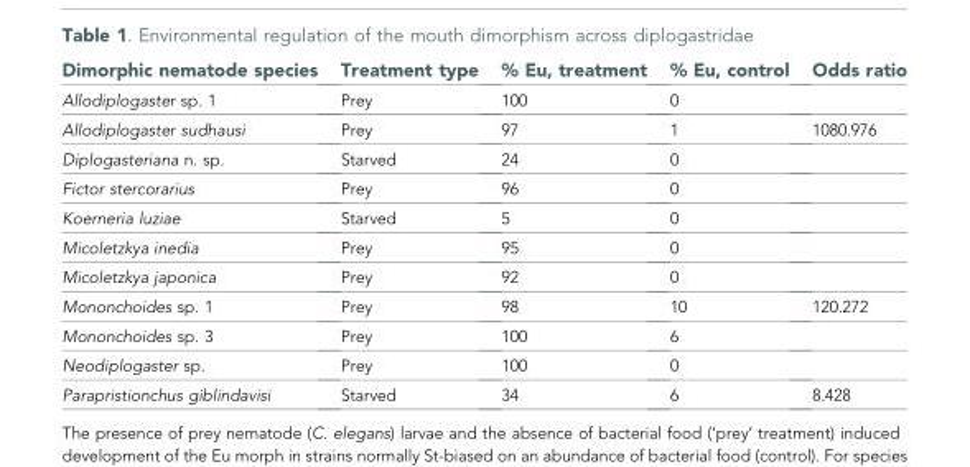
<table><thead><tr><td>Dimorphic nematode species</td><td>Treatment type</td><td>% Eu, treatment</td><td>% Eu, control</td><td>Odds ratio</td></tr></thead><tbody><tr><td>Allodiplogaster sp. 1</td><td>Prey</td><td>100</td><td>0</td><td></td></tr><tr><td>Allodiplogaster sudhausi</td><td>Prey</td><td>97</td><td>1</td><td>1080.976</td></tr><tr><td>Diplogasteriana n. sp.</td><td>Starved</td><td>24</td><td>0</td><td></td></tr><tr><td>Fictor stercorarius</td><td>Prey</td><td>96</td><td>0</td><td></td></tr><tr><td>Koerneria luziae</td><td>Starved</td><td>5</td><td>0</td><td></td></tr><tr><td>Micoletzkya inedia</td><td>Prey</td><td>95</td><td>0</td><td></td></tr><tr><td>Micoletzkya japonica</td><td>Prey</td><td>92</td><td>0</td><td></td></tr><tr><td>Mononchoides sp. 1</td><td>Prey</td><td>98</td><td>10</td><td>120.272</td></tr><tr><td>Mononchoides sp. 3</td><td>Prey</td><td>100</td><td>6</td><td></td></tr><tr><td>Neodiplogaster sp.</td><td>Prey</td><td>100</td><td>0</td><td></td></tr><tr><td>Parapristionchus giblindavisi</td><td>Starved</td><td>34</td><td>6</td><td>8.428</td></tr></tbody></table>